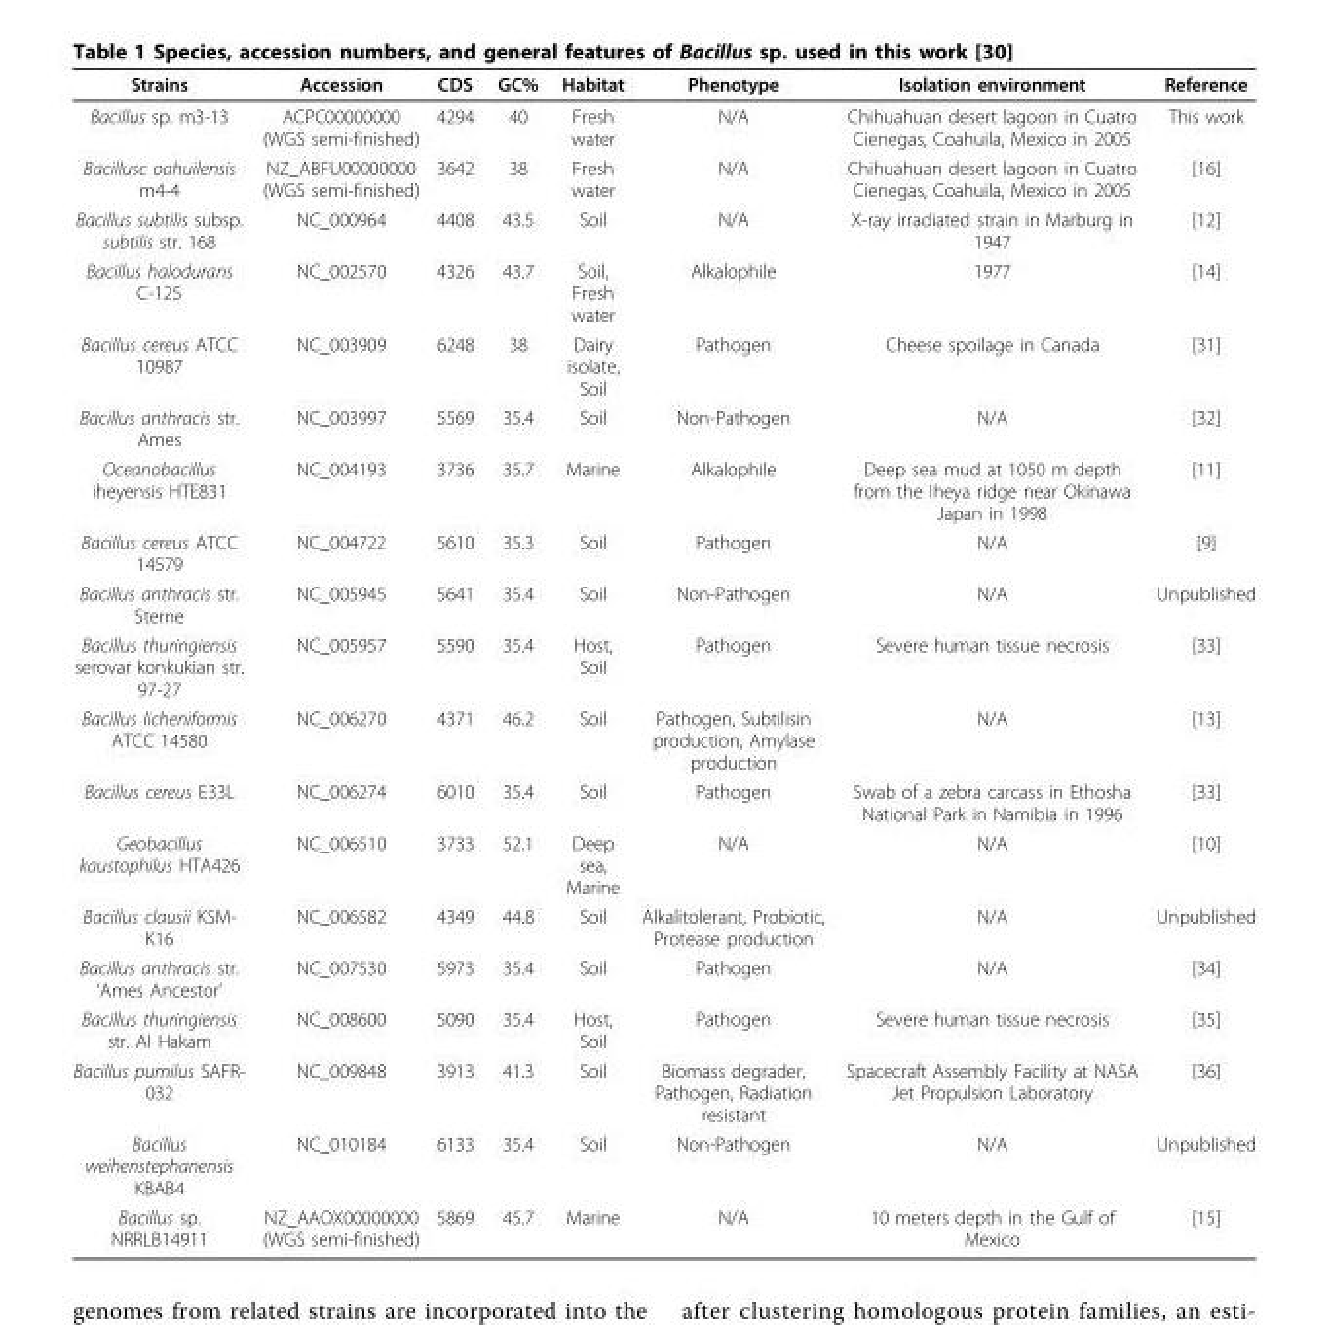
<table><thead><tr><td>Strains</td><td>Accession</td><td>CDS</td><td>GC%</td><td>Habitat</td><td>Phenotype</td><td>Isolation environment</td><td>Reference</td></tr></thead><tbody><tr><td>Bacillus sp. m3-13</td><td>ACPC00000000 (WGS semi-finished)</td><td>4294</td><td>40</td><td>Fresh water</td><td>N/A</td><td>Chihuahuan desert lagoon in Cuatro Cienegas, Coahuila, Mexico in 2005</td><td>This work</td></tr><tr><td>Bacillusc oahuilensis m4-4</td><td>NZ_ABFU00000000 (WGS semi-finished)</td><td>3642</td><td>38</td><td>Fresh water</td><td>N/A</td><td>Chihuahuan desert lagoon in Cuatro Cienegas, Coahuila, Mexico in 2005</td><td>[16]</td></tr><tr><td>Bacillus subtilis subsp. subtilis str. 168</td><td>NC_000964</td><td>4408</td><td>43.5</td><td>Soil</td><td>N/A</td><td>X-ray irradiated strain in Marburg in 1947</td><td>[12]</td></tr><tr><td>Bacillus halodurans C-125</td><td>NC_002570</td><td>4326</td><td>43.7</td><td>Soil, Fresh water</td><td>Alkalophile</td><td>1977</td><td>[14]</td></tr><tr><td>Bacillus cereus ATCC 10987</td><td>NC_003909</td><td>6248</td><td>38</td><td>Dairy isolate, Soil</td><td>Pathogen</td><td>Cheese spoilage in Canada</td><td>[31]</td></tr><tr><td>Bacillus anthracis str. Ames</td><td>NC_003997</td><td>5569</td><td>35.4</td><td>Soil</td><td>Non-Pathogen</td><td>N/A</td><td>[32]</td></tr><tr><td>Oceanobacillus iheyensis HTE831</td><td>NC_004193</td><td>3736</td><td>35.7</td><td>Marine</td><td>Alkalophile</td><td>Deep sea mud at 1050 m depth from the Iheya ridge near Okinawa Japan in 1998</td><td>[11]</td></tr><tr><td>Bacillus cereus ATCC 14579</td><td>NC_004722</td><td>5610</td><td>35.3</td><td>Soil</td><td>Pathogen</td><td>N/A</td><td>[9]</td></tr><tr><td>Bacillus anthracis str. Sterne</td><td>NC_005945</td><td>5641</td><td>35.4</td><td>Soil</td><td>Non-Pathogen</td><td>N/A</td><td>Unpublished</td></tr><tr><td>Bacillus thuringiensis serovar konkukian str. 97-27</td><td>NC_005957</td><td>5590</td><td>35.4</td><td>Host, Soil</td><td>Pathogen</td><td>Severe human tissue necrosis</td><td>[33]</td></tr><tr><td>Bacillus licheniformis ATCC 14580</td><td>NC_006270</td><td>4371</td><td>46.2</td><td>Soil</td><td>Pathogen, Subtilisin production, Amylase production</td><td>N/A</td><td>[13]</td></tr><tr><td>Bacillus cereus E33L</td><td>NC_006274</td><td>6010</td><td>35.4</td><td>Soil</td><td>Pathogen</td><td>Swab of a zebra carcass in Ethosha National Park in Namibia in 1996</td><td>[33]</td></tr><tr><td>Geobacillus kaustophilus HTA426</td><td>NC_006510</td><td>3733</td><td>52.1</td><td>Deep sea, Marine</td><td>N/A</td><td>N/A</td><td>[10]</td></tr><tr><td>Bacillus clausii KSM- K16</td><td>NC_006582</td><td>4349</td><td>44.8</td><td>Soil</td><td>Alkalitolerant, Probiotic, Protease production</td><td>N/A</td><td>Unpublished</td></tr><tr><td>Bacillus anthracis str. ‘Ames Ancestor’</td><td>NC_007530</td><td>5973</td><td>35.4</td><td>Soil</td><td>Pathogen</td><td>N/A</td><td>[34]</td></tr><tr><td>Bacillus thuringiensis str. Al Hakam</td><td>NC_008600</td><td>5090</td><td>35.4</td><td>Host, Soil</td><td>Pathogen</td><td>Severe human tissue necrosis</td><td>[35]</td></tr><tr><td>Bacillus pumilus SAFR- 032</td><td>NC_009848</td><td>3913</td><td>41.3</td><td>Soil</td><td>Biomass degrader, Pathogen, Radiation resistant</td><td>Spacecraft Assembly Facility at NASA Jet Propulsion Laboratory</td><td>[36]</td></tr><tr><td>Bacillus weihenstephanensis KBAB4</td><td>NC_010184</td><td>6133</td><td>35.4</td><td>Soil</td><td>Non-Pathogen</td><td>N/A</td><td>Unpublished</td></tr><tr><td>Bacillus sp. NRRLB14911</td><td>NZ_AAOX00000000 (WGS semi-finished)</td><td>5869</td><td>45.7</td><td>Marine</td><td>N/A</td><td>10 meters depth in the Gulf of Mexico</td><td>[15]</td></tr></tbody></table>